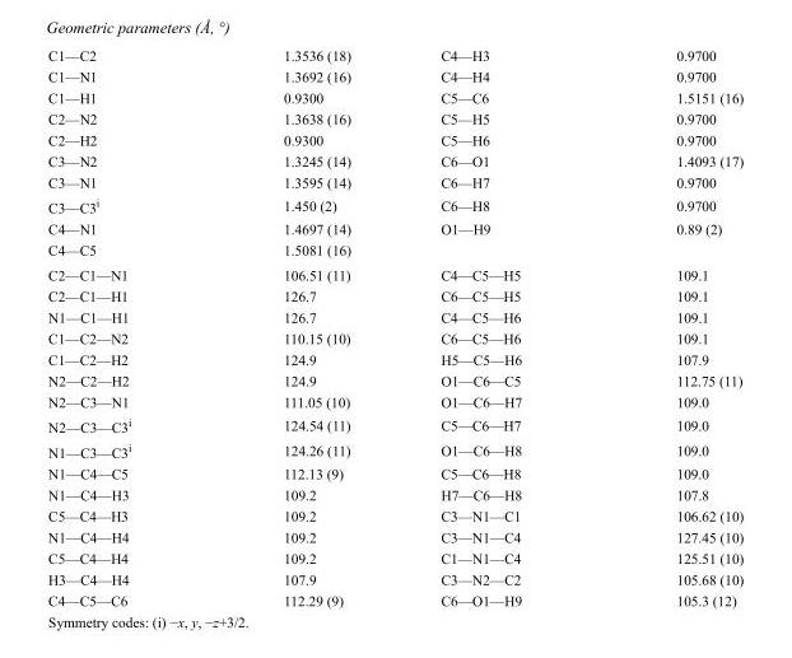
<table><tbody><tr><td>C1—C2</td><td>1.3536 (18)</td><td>C4—H3</td><td>0.9700</td></tr><tr><td>C1—N1</td><td>1.3692 (16)</td><td>C4—H4</td><td>0.9700</td></tr><tr><td>C1—H1</td><td>0.9300</td><td>C5—C6</td><td>1.5151 (16)</td></tr><tr><td>C2—N2</td><td>1.3638 (16)</td><td>C5—H5</td><td>0.9700</td></tr><tr><td>C2—H2</td><td>0.9300</td><td>C5—H6</td><td>0.9700</td></tr><tr><td>C3—N2</td><td>1.3245 (14)</td><td>C6—O1</td><td>1.4093 (17)</td></tr><tr><td>C3—N1</td><td>1.3595 (14)</td><td>C6—H7</td><td>0.9700</td></tr><tr><td>C3—C3<sup>i</sup></td><td>1.450 (2)</td><td>C6—H8</td><td>0.9700</td></tr><tr><td>C4—N1</td><td>1.4697 (14)</td><td>O1—H9</td><td>0.89 (2)</td></tr><tr><td>C4—C5</td><td>1.5081 (16)</td><td></td><td></td></tr><tr><td>C2—C1—N1</td><td>106.51 (11)</td><td>C4—C5—H5</td><td>109.1</td></tr><tr><td>C2—C1—H1</td><td>126.7</td><td>C6—C5—H5</td><td>109.1</td></tr><tr><td>N1—C1—H1</td><td>126.7</td><td>C4—C5—H6</td><td>109.1</td></tr><tr><td>C1—C2—N2</td><td>110.15 (10)</td><td>C6—C5—H6</td><td>109.1</td></tr><tr><td>C1—C2—H2</td><td>124.9</td><td>H5—C5—H6</td><td>107.9</td></tr><tr><td>N2—C2—H2</td><td>124.9</td><td>O1—C6—C5</td><td>112.75 (11)</td></tr><tr><td>N2—C3—N1</td><td>111.05 (10)</td><td>O1—C6—H7</td><td>109.0</td></tr><tr><td>N2—C3—C3<sup>i</sup></td><td>124.54 (11)</td><td>C5—C6—H7</td><td>109.0</td></tr><tr><td>N1—C3—C3<sup>i</sup></td><td>124.26 (11)</td><td>O1—C6—H8</td><td>109.0</td></tr><tr><td>N1—C4—C5</td><td>112.13 (9)</td><td>C5—C6—H8</td><td>109.0</td></tr><tr><td>N1—C4—H3</td><td>109.2</td><td>H7—C6—H8</td><td>107.8</td></tr><tr><td>C5—C4—H3</td><td>109.2</td><td>C3—N1—C1</td><td>106.62 (10)</td></tr><tr><td>N1—C4—H4</td><td>109.2</td><td>C3—N1—C4</td><td>127.45 (10)</td></tr><tr><td>C5—C4—H4</td><td>109.2</td><td>C1—N1—C4</td><td>125.51 (10)</td></tr><tr><td>H3—C4—H4</td><td>107.9</td><td>C3—N2—C2</td><td>105.68 (10)</td></tr><tr><td>C4—C5—C6</td><td>112.29 (9)</td><td>C6—O1—H9</td><td>105.3 (12)</td></tr></tbody></table>